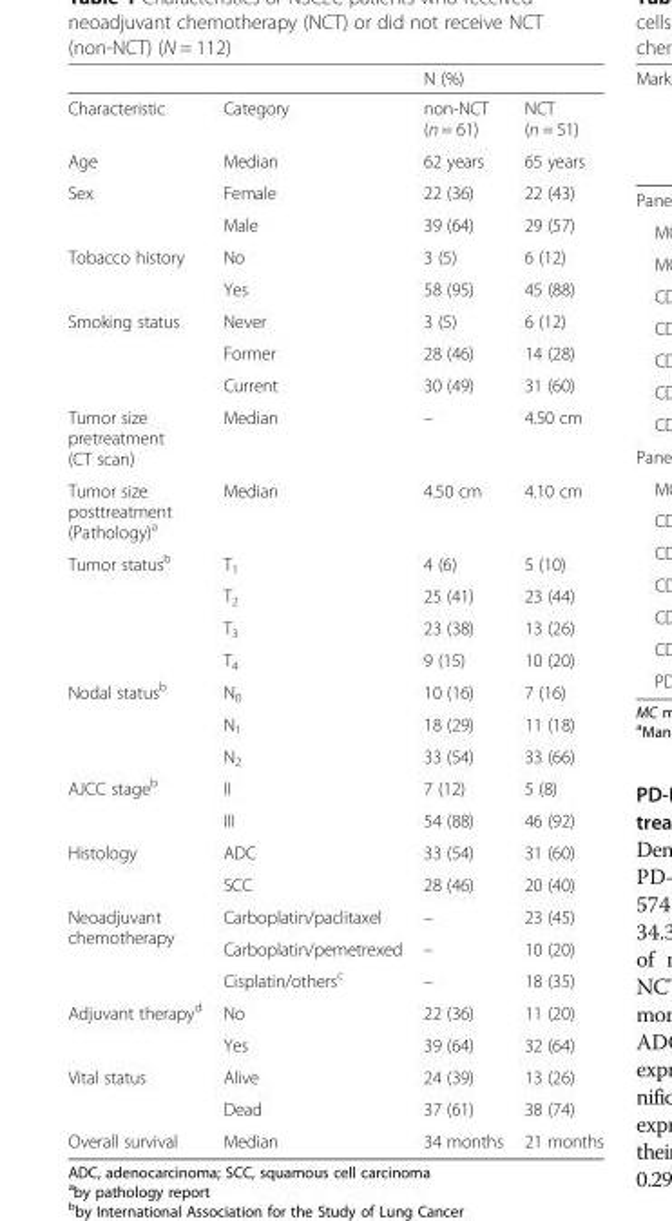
<table><thead><tr><td rowspan="2">Characteristic</td><td rowspan="2">Category</td><td colspan="2">N (%)</td></tr><tr><td>non-NCT (n = 61)</td><td>NCT (n = 51)</td></tr></thead><tbody><tr><td>Age</td><td>Median</td><td>62 years</td><td>65 years</td></tr><tr><td rowspan="2">Sex</td><td>Female</td><td>22 (36)</td><td>22 (43)</td></tr><tr><td>Male</td><td>39 (64)</td><td>29 (57)</td></tr><tr><td rowspan="2">Tobacco history</td><td>No</td><td>3 (5)</td><td>6 (12)</td></tr><tr><td>Yes</td><td>58 (95)</td><td>45 (88)</td></tr><tr><td rowspan="3">Smoking status</td><td>Never</td><td>3 (5)</td><td>6 (12)</td></tr><tr><td>Former</td><td>28 (46)</td><td>14 (28)</td></tr><tr><td>Current</td><td>30 (49)</td><td>31 (60)</td></tr><tr><td>Tumor size pretreatment (CT scan)</td><td>Median</td><td>–</td><td>4.50 cm</td></tr><tr><td>Tumor size posttreatment (Pathology)<sup>a</sup></td><td>Median</td><td>4.50 cm</td><td>4.10 cm</td></tr><tr><td rowspan="4">Tumor status<sup>b</sup></td><td>T<sub>1</sub></td><td>4 (6)</td><td>5 (10)</td></tr><tr><td>T<sub>2</sub></td><td>25 (41)</td><td>23 (44)</td></tr><tr><td>T<sub>3</sub></td><td>23 (38)</td><td>13 (26)</td></tr><tr><td>T<sub>4</sub></td><td>9 (15)</td><td>10 (20)</td></tr><tr><td rowspan="3">Nodal status<sup>b</sup></td><td>N<sub>0</sub></td><td>10 (16)</td><td>7 (16)</td></tr><tr><td>N<sub>1</sub></td><td>18 (29)</td><td>11 (18)</td></tr><tr><td>N<sub>2</sub></td><td>33 (54)</td><td>33 (66)</td></tr><tr><td rowspan="2">AJCC stage<sup>b</sup></td><td>II</td><td>7 (12)</td><td>5 (8)</td></tr><tr><td>III</td><td>54 (88)</td><td>46 (92)</td></tr><tr><td rowspan="2">Histology</td><td>ADC</td><td>33 (54)</td><td>31 (60)</td></tr><tr><td>SCC</td><td>28 (46)</td><td>20 (40)</td></tr><tr><td rowspan="3">Neoadjuvant chemotherapy</td><td>Carboplatin/paclitaxel</td><td>–</td><td>23 (45)</td></tr><tr><td>Carboplatin/pemetrexed</td><td>–</td><td>10 (20)</td></tr><tr><td>Cisplatin/others<sup>c</sup></td><td>–</td><td>18 (35)</td></tr><tr><td rowspan="2">Adjuvant therapy<sup>d</sup></td><td>No</td><td>22 (36)</td><td>11 (20)</td></tr><tr><td>Yes</td><td>39 (64)</td><td>32 (64)</td></tr><tr><td rowspan="2">Vital status</td><td>Alive</td><td>24 (39)</td><td>13 (26)</td></tr><tr><td>Dead</td><td>37 (61)</td><td>38 (74)</td></tr><tr><td>Overall survival</td><td>Median</td><td>34 months</td><td>21 months</td></tr></tbody></table>